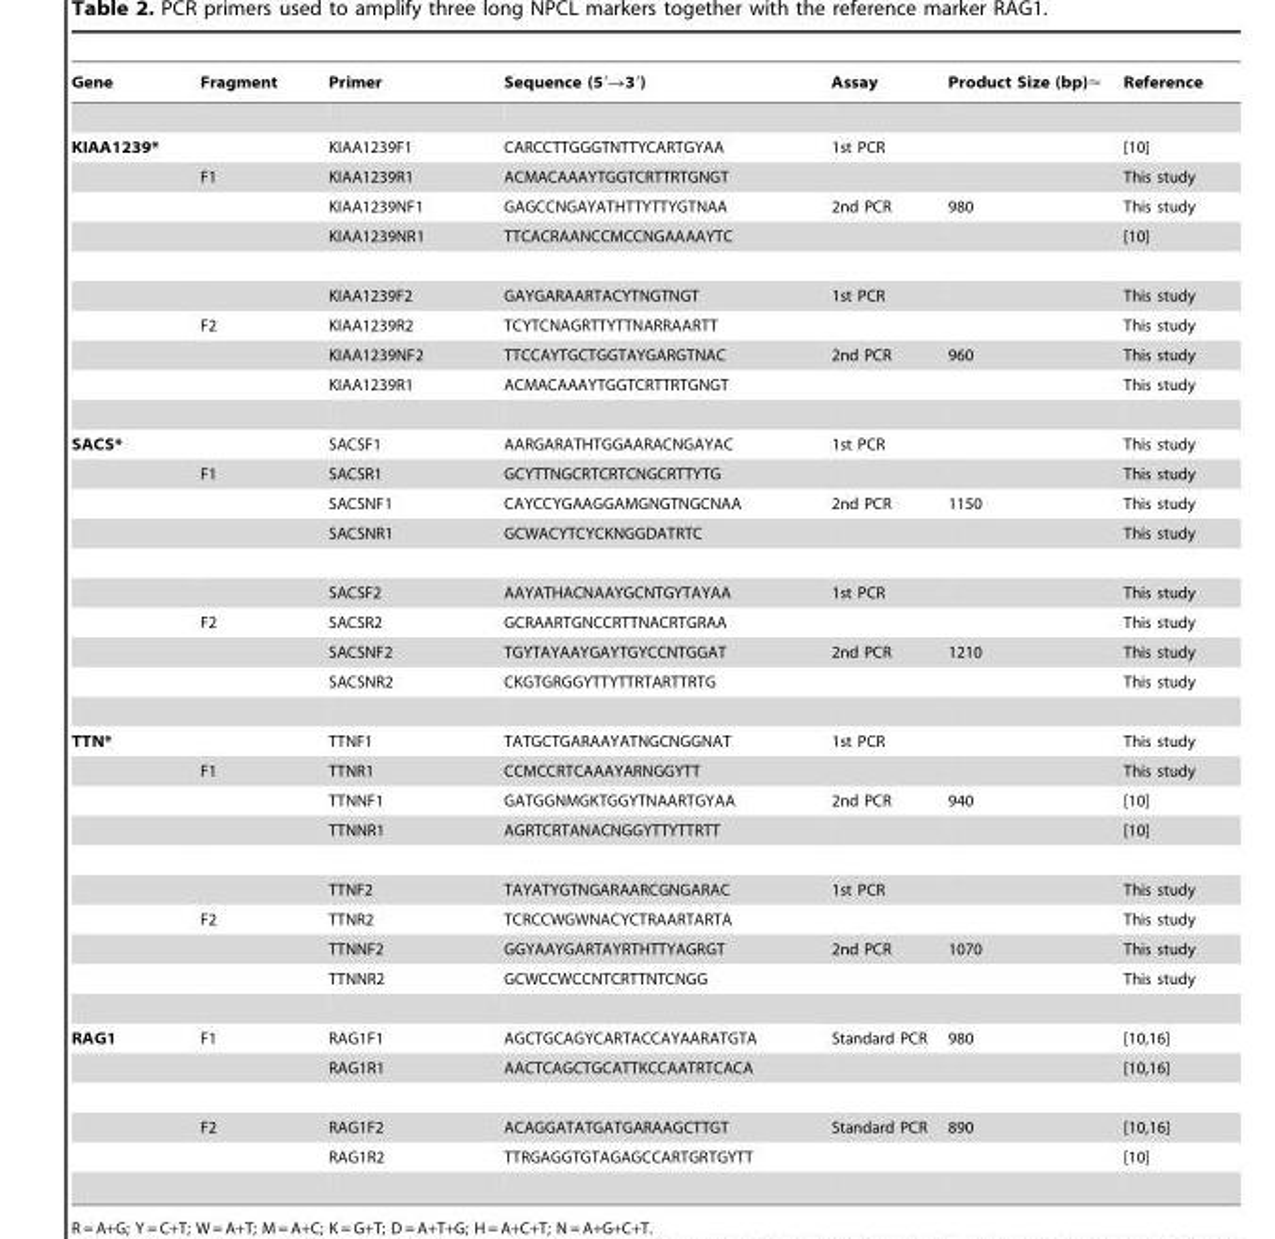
<table><thead><tr><td>Gene</td><td>Fragment</td><td>Primer</td><td>Sequence (5′→3′)</td><td>Assay</td><td>Product Size (bp)&lt;</td><td>Reference</td></tr></thead><tbody><tr><td rowspan="8">KIAA1239*</td><td></td><td>KIAA1239F1</td><td>CARCCTTGGGTNTTYCARTGYAA</td><td>1st PCR</td><td></td><td>[10]</td></tr><tr><td>F1</td><td>KIAA1239R1</td><td>ACMACAAAYTGGTCRTTRTGNGT</td><td></td><td></td><td>This study</td></tr><tr><td></td><td>KIAA1239NF1</td><td>GAGCCNGAYATHTTYTTYGTNAA</td><td>2nd PCR</td><td>980</td><td>This study</td></tr><tr><td></td><td>KIAA1239NR1</td><td>TTCACRAANCCMCCNGAAAAYTC</td><td></td><td></td><td>[10]</td></tr><tr><td></td><td>KIAA1239F2</td><td>GAYGARAARTACYTNGTNGT</td><td>1st PCR</td><td></td><td>This study</td></tr><tr><td>F2</td><td>KIAA1239R2</td><td>TCYTCNAGRTTYTTNARRAARTT</td><td></td><td></td><td>This study</td></tr><tr><td></td><td>KIAA1239NF2</td><td>TTCCAYTGCTGGTAYGARGTNAC</td><td>2nd PCR</td><td>960</td><td>This study</td></tr><tr><td></td><td>KIAA1239R1</td><td>ACMACAAAYTGGTCRTTRTGNGT</td><td></td><td></td><td>This study</td></tr><tr><td rowspan="8">SACS*</td><td></td><td>SACSF1</td><td>AARGARATHTGGAARACNGAYAC</td><td>1st PCR</td><td></td><td>This study</td></tr><tr><td>F1</td><td>SACSR1</td><td>GCYTTNGCRTCRTCNGCRTTYTG</td><td></td><td></td><td>This study</td></tr><tr><td></td><td>SACSNF1</td><td>CAYCCYGAAGGAMGNGTNGCNAA</td><td>2nd PCR</td><td>1150</td><td>This study</td></tr><tr><td></td><td>SACSNR1</td><td>GCWACYTCYCKNGGDATRTC</td><td></td><td></td><td>This study</td></tr><tr><td></td><td>SACSF2</td><td>AAYATHACNAAYGCNTGYTAYAA</td><td>1st PCR</td><td></td><td>This study</td></tr><tr><td>F2</td><td>SACSR2</td><td>GCRAARTGNCCRTTNACRTGRAA</td><td></td><td></td><td>This study</td></tr><tr><td></td><td>SACSNF2</td><td>TGYTAYAAYGAYTGYCCNTGGAT</td><td>2nd PCR</td><td>1210</td><td>This study</td></tr><tr><td></td><td>SACSNR2</td><td>CKGTGRGGYTTYTTRTARTTRTG</td><td></td><td></td><td>This study</td></tr><tr><td rowspan="8">TTN*</td><td></td><td>TTNF1</td><td>TATGCTGARAAYATNGCNGGNAT</td><td>1st PCR</td><td></td><td>This study</td></tr><tr><td>F1</td><td>TTNR1</td><td>CCMCCRTCAAAYARNGGYTT</td><td></td><td></td><td>This study</td></tr><tr><td></td><td>TTNNF1</td><td>GATGGNMGKTGGYTNAARTGYAA</td><td>2nd PCR</td><td>940</td><td>[10]</td></tr><tr><td></td><td>TTNNR1</td><td>AGRTCRTANACNGGYTTYTTRTT</td><td></td><td></td><td>[10]</td></tr><tr><td></td><td>TTNF2</td><td>TAYATYGTNGARAARCGNGARAC</td><td>1st PCR</td><td></td><td>This study</td></tr><tr><td>F2</td><td>TTNR2</td><td>TCRCCWGWNACYCTRAARTARTA</td><td></td><td></td><td>This study</td></tr><tr><td></td><td>TTNNF2</td><td>GGYAAYGARTAYRTHTTYAGRGT</td><td>2nd PCR</td><td>1070</td><td>This study</td></tr><tr><td></td><td>TTNNR2</td><td>GCWCCWCCNTCRTTNTCNGG</td><td></td><td></td><td>This study</td></tr><tr><td rowspan="4">RAG1</td><td>F1</td><td>RAG1F1</td><td>AGCTGCAGYCARTACCAYAARATGTA</td><td>Standard PCR</td><td>980</td><td>[10,16]</td></tr><tr><td></td><td>RAG1R1</td><td>AACTCAGCTGCATTKCCAATRTCACA</td><td></td><td></td><td>[10,16]</td></tr><tr><td>F2</td><td>RAG1F2</td><td>ACAGGATATGATGARAAGCTTGT</td><td>Standard PCR</td><td>890</td><td>[10,16]</td></tr><tr><td></td><td>RAG1R2</td><td>TTRGAGGTGTAGAGCCARTGRTGYTT</td><td></td><td></td><td>[10]</td></tr></tbody></table>